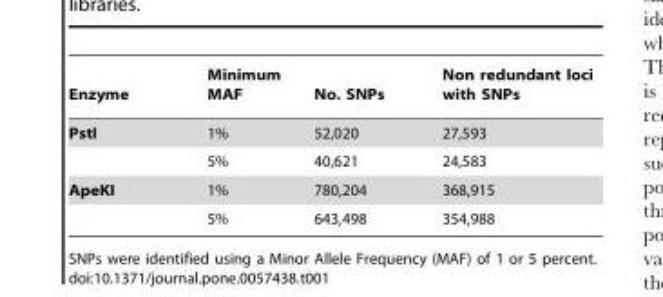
<table><thead><tr><td>Enzyme</td><td>Minimum MAF</td><td>No. SNPs</td><td>Non redundant loci with SNPs</td></tr></thead><tbody><tr><td rowspan="2">PstI</td><td>1%</td><td>52,020</td><td>27,593</td></tr><tr><td>5%</td><td>40,621</td><td>24,583</td></tr><tr><td rowspan="2">ApeKI</td><td>1%</td><td>780,204</td><td>368,915</td></tr><tr><td>5%</td><td>643,498</td><td>354,988</td></tr></tbody></table>